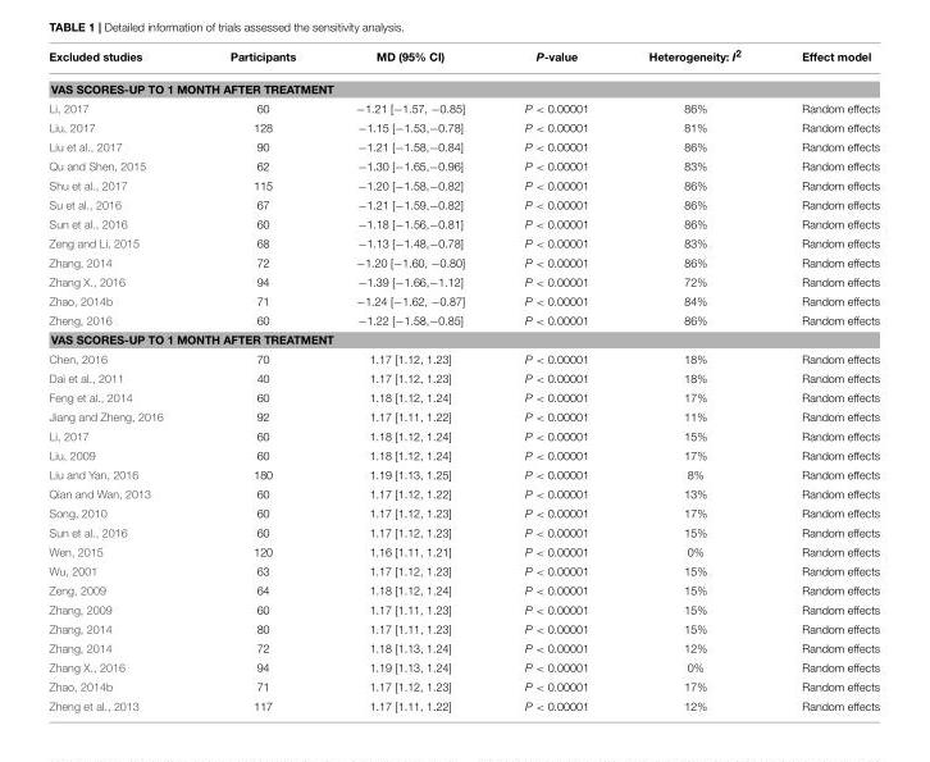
<table><thead><tr><td>Excluded studies</td><td>Participants</td><td>MD (95% CI)</td><td>P-value</td><td>Heterogeneity: I<sup>2</sup></td><td>Effect model</td></tr></thead><tbody><tr><td colspan="6">VAS SCORES-UP TO 1 MONTH AFTER TREATMENT</td></tr><tr><td>Li, 2017</td><td>60</td><td>−1.21 [−1.57, −0.85]</td><td>P &lt; 0.00001</td><td>86%</td><td>Random effects</td></tr><tr><td>Liu, 2017</td><td>128</td><td>−1.15 [−1.53,−0.78]</td><td>P &lt; 0.00001</td><td>81%</td><td>Random effects</td></tr><tr><td>Liu et al., 2017</td><td>90</td><td>−1.21 [−1.58,−0.84]</td><td>P &lt; 0.00001</td><td>86%</td><td>Random effects</td></tr><tr><td>Qu and Shen, 2015</td><td>62</td><td>−1.30 [−1.65,−0.96]</td><td>P &lt; 0.00001</td><td>83%</td><td>Random effects</td></tr><tr><td>Shu et al., 2017</td><td>115</td><td>−1.20 [−1.58,−0.82]</td><td>P &lt; 0.00001</td><td>86%</td><td>Random effects</td></tr><tr><td>Su et al., 2016</td><td>67</td><td>−1.21 [−1.59,−0.82]</td><td>P &lt; 0.00001</td><td>86%</td><td>Random effects</td></tr><tr><td>Sun et al., 2016</td><td>60</td><td>−1.18 [−1.56,−0.81]</td><td>P &lt; 0.00001</td><td>86%</td><td>Random effects</td></tr><tr><td>Zeng and Li, 2015</td><td>68</td><td>−1.13 [−1.48,−0.78]</td><td>P &lt; 0.00001</td><td>83%</td><td>Random effects</td></tr><tr><td>Zhang, 2014</td><td>72</td><td>−1.20 [−1.60, −0.80]</td><td>P &lt; 0.00001</td><td>86%</td><td>Random effects</td></tr><tr><td>Zhang X., 2016</td><td>94</td><td>−1.39 [−1.66,−1.12]</td><td>P &lt; 0.00001</td><td>72%</td><td>Random effects</td></tr><tr><td>Zhao, 2014b</td><td>71</td><td>−1.24 [−1.62, −0.87]</td><td>P &lt; 0.00001</td><td>84%</td><td>Random effects</td></tr><tr><td>Zheng, 2016</td><td>60</td><td>−1.22 [−1.58,−0.85]</td><td>P &lt; 0.00001</td><td>86%</td><td>Random effects</td></tr><tr><td colspan="6">VAS SCORES-UP TO 1 MONTH AFTER TREATMENT</td></tr><tr><td>Chen, 2016</td><td>70</td><td>1.17 [1.12, 1.23]</td><td>P &lt; 0.00001</td><td>18%</td><td>Random effects</td></tr><tr><td>Dai et al., 2011</td><td>40</td><td>1.17 [1.12, 1.23]</td><td>P &lt; 0.00001</td><td>18%</td><td>Random effects</td></tr><tr><td>Feng et al., 2014</td><td>60</td><td>1.18 [1.12, 1.24]</td><td>P &lt; 0.00001</td><td>17%</td><td>Random effects</td></tr><tr><td>Jiang and Zheng, 2016</td><td>92</td><td>1.17 [1.11, 1.22]</td><td>P &lt; 0.00001</td><td>11%</td><td>Random effects</td></tr><tr><td>Li, 2017</td><td>60</td><td>1.18 [1.12, 1.24]</td><td>P &lt; 0.00001</td><td>15%</td><td>Random effects</td></tr><tr><td>Liu, 2009</td><td>60</td><td>1.18 [1.12, 1.24]</td><td>P &lt; 0.00001</td><td>17%</td><td>Random effects</td></tr><tr><td>Liu and Yan, 2016</td><td>180</td><td>1.19 [1.13, 1.25]</td><td>P &lt; 0.00001</td><td>8%</td><td>Random effects</td></tr><tr><td>Qian and Wan, 2013</td><td>60</td><td>1.17 [1.12, 1.22]</td><td>P &lt; 0.00001</td><td>13%</td><td>Random effects</td></tr><tr><td>Song, 2010</td><td>60</td><td>1.17 [1.12, 1.23]</td><td>P &lt; 0.00001</td><td>17%</td><td>Random effects</td></tr><tr><td>Sun et al., 2016</td><td>60</td><td>1.17 [1.12, 1.23]</td><td>P &lt; 0.00001</td><td>15%</td><td>Random effects</td></tr><tr><td>Wen, 2015</td><td>120</td><td>1.16 [1.11, 1.21]</td><td>P &lt; 0.00001</td><td>0%</td><td>Random effects</td></tr><tr><td>Wu, 2001</td><td>63</td><td>1.17 [1.12, 1.23]</td><td>P &lt; 0.00001</td><td>15%</td><td>Random effects</td></tr><tr><td>Zeng, 2009</td><td>64</td><td>1.18 [1.12, 1.24]</td><td>P &lt; 0.00001</td><td>15%</td><td>Random effects</td></tr><tr><td>Zhang, 2009</td><td>60</td><td>1.17 [1.11, 1.23]</td><td>P &lt; 0.00001</td><td>15%</td><td>Random effects</td></tr><tr><td>Zhang, 2014</td><td>80</td><td>1.17 [1.11, 1.23]</td><td>P &lt; 0.00001</td><td>15%</td><td>Random effects</td></tr><tr><td>Zhang, 2014</td><td>72</td><td>1.18 [1.13, 1.24]</td><td>P &lt; 0.00001</td><td>12%</td><td>Random effects</td></tr><tr><td>Zhang X., 2016</td><td>94</td><td>1.19 [1.13, 1.24]</td><td>P &lt; 0.00001</td><td>0%</td><td>Random effects</td></tr><tr><td>Zhao, 2014b</td><td>71</td><td>1.17 [1.12, 1.23]</td><td>P &lt; 0.00001</td><td>17%</td><td>Random effects</td></tr><tr><td>Zheng et al., 2013</td><td>117</td><td>1.17 [1.11, 1.22]</td><td>P &lt; 0.00001</td><td>12%</td><td>Random effects</td></tr></tbody></table>